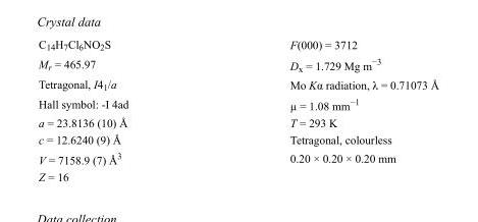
<table><tbody><tr><td>C<sub>14</sub>H<sub>7</sub>Cl<sub>6</sub>NO<sub>2</sub>S</td><td>F(000) = 3712</td></tr><tr><td>M<sub>r</sub> = 465.97</td><td>D<sub>x</sub> = 1.729 Mg m<sup>−3</sup></td></tr><tr><td>Tetragonal, I4<sub>1</sub>/a</td><td>Mo Kα radiation, λ = 0.71073 Å</td></tr><tr><td>Hall symbol: -I 4ad</td><td>µ = 1.08 mm<sup>−1</sup></td></tr><tr><td>a = 23.8136 (10) Å</td><td>T = 293 K</td></tr><tr><td>c = 12.6240 (9) Å</td><td>Tetragonal, colourless</td></tr><tr><td>V = 7158.9 (7) Å<sup>3</sup></td><td>0.20 × 0.20 × 0.20 mm</td></tr><tr><td>Z = 16</td><td></td></tr></tbody></table>